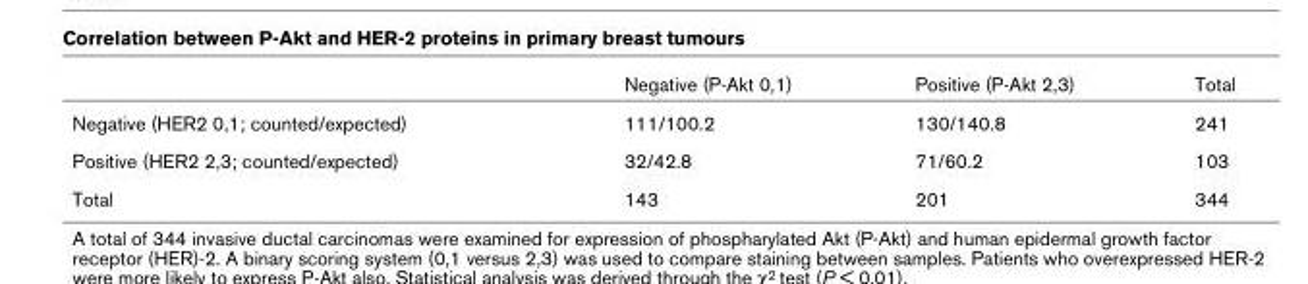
<table><thead><tr><td></td><td>Negative (P-Akt 0,1)</td><td>Positive (P-Akt 2,3)</td><td>Total</td></tr></thead><tbody><tr><td>Negative (HER2 0,1; counted/expected)</td><td>111/100.2</td><td>130/140.8</td><td>241</td></tr><tr><td>Positive (HER2 2,3; counted/expected)</td><td>32/42.8</td><td>71/60.2</td><td>103</td></tr><tr><td>Total</td><td>143</td><td>201</td><td>344</td></tr></tbody></table>